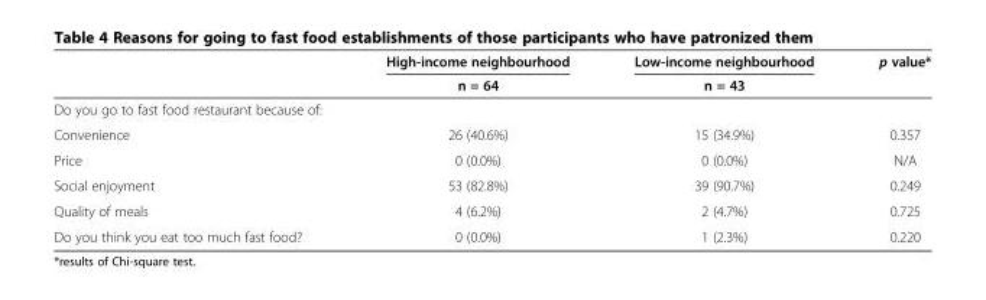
<table><thead><tr><td rowspan="2"></td><td rowspan="2">High-income neighbourhood n = 64</td><td rowspan="2">Low-income neighbourhood n = 43</td><td rowspan="2">p value*</td></tr><tr></tr></thead><tbody><tr><td colspan="4">Do you go to fast food restaurant because of:</td></tr><tr><td>Convenience</td><td>26 (40.6%)</td><td>15 (34.9%)</td><td>0.357</td></tr><tr><td>Price</td><td>0 (0.0%)</td><td>0 (0.0%)</td><td>N/A</td></tr><tr><td>Social enjoyment</td><td>53 (82.8%)</td><td>39 (90.7%)</td><td>0.249</td></tr><tr><td>Quality of meals</td><td>4 (6.2%)</td><td>2 (4.7%)</td><td>0.725</td></tr><tr><td>Do you think you eat too much fast food?</td><td>0 (0.0%)</td><td>1 (2.3%)</td><td>0.220</td></tr></tbody></table>